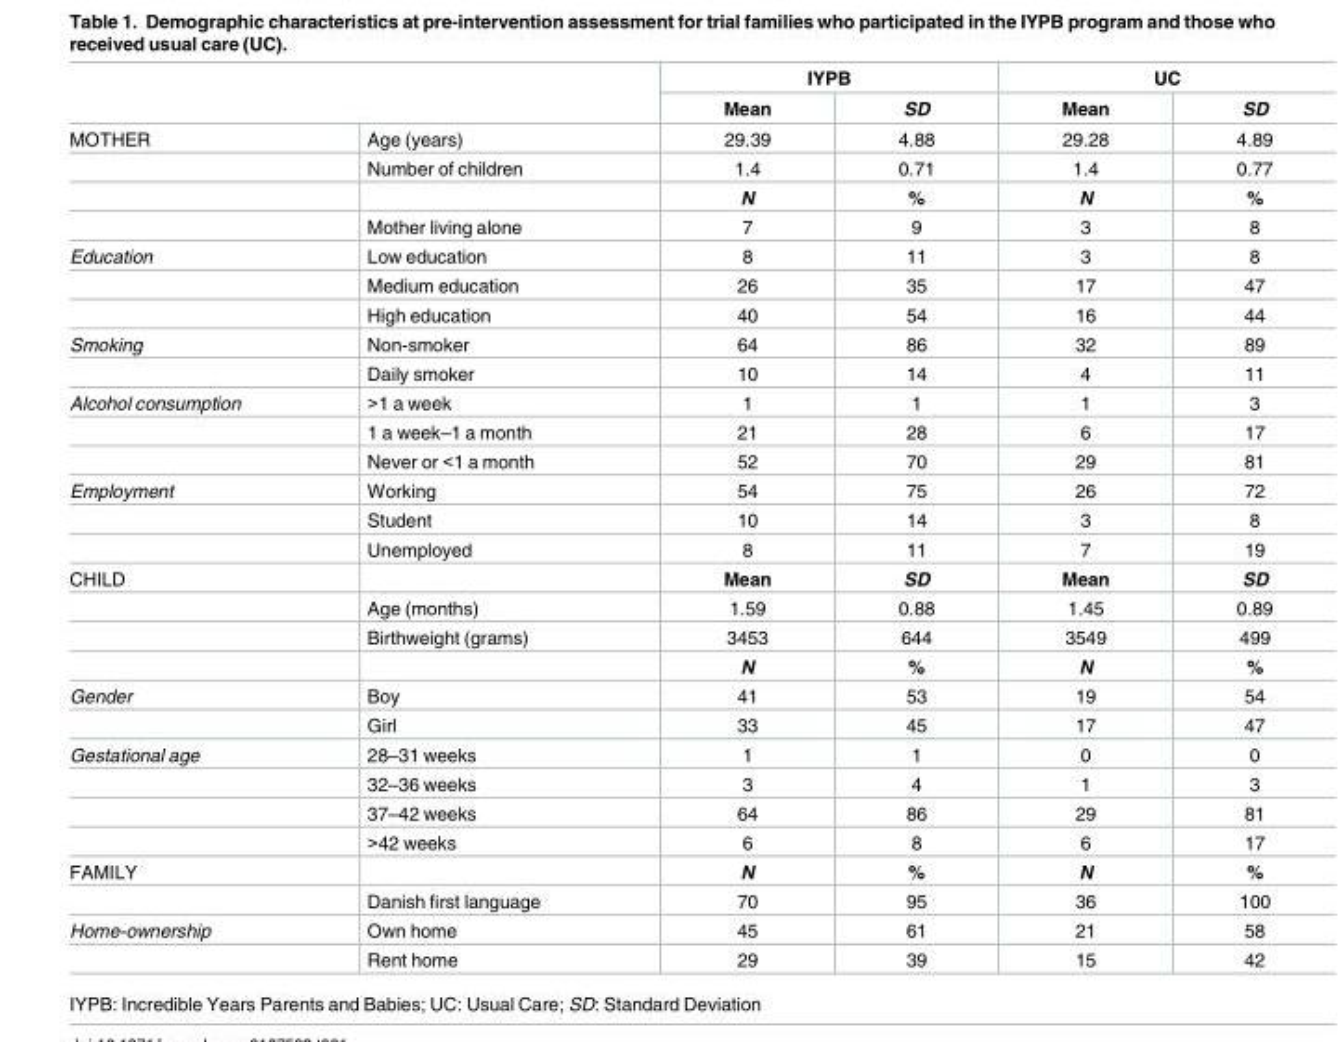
<table><thead><tr><td rowspan="2"></td><td rowspan="2"></td><td colspan="2">IYPB</td><td colspan="2">UC</td></tr><tr><td>Mean</td><td>SD</td><td>Mean</td><td>SD</td></tr></thead><tbody><tr><td rowspan="4">MOTHER</td><td>Age (years)</td><td>29.39</td><td>4.88</td><td>29.28</td><td>4.89</td></tr><tr><td>Number of children</td><td>1.4</td><td>0.71</td><td>1.4</td><td>0.77</td></tr><tr><td></td><td>N</td><td>%</td><td>N</td><td>%</td></tr><tr><td>Mother living alone</td><td>7</td><td>9</td><td>3</td><td>8</td></tr><tr><td rowspan="3">Education</td><td>Low education</td><td>8</td><td>11</td><td>3</td><td>8</td></tr><tr><td>Medium education</td><td>26</td><td>35</td><td>17</td><td>47</td></tr><tr><td>High education</td><td>40</td><td>54</td><td>16</td><td>44</td></tr><tr><td rowspan="2">Smoking</td><td>Non-smoker</td><td>64</td><td>86</td><td>32</td><td>89</td></tr><tr><td>Daily smoker</td><td>10</td><td>14</td><td>4</td><td>11</td></tr><tr><td rowspan="3">Alcohol consumption</td><td>&gt;1 a week</td><td>1</td><td>1</td><td>1</td><td>3</td></tr><tr><td>1 a week–1 a month</td><td>21</td><td>28</td><td>6</td><td>17</td></tr><tr><td>Never or &lt;1 a month</td><td>52</td><td>70</td><td>29</td><td>81</td></tr><tr><td rowspan="3">Employment</td><td>Working</td><td>54</td><td>75</td><td>26</td><td>72</td></tr><tr><td>Student</td><td>10</td><td>14</td><td>3</td><td>8</td></tr><tr><td>Unemployed</td><td>8</td><td>11</td><td>7</td><td>19</td></tr><tr><td rowspan="4">CHILD</td><td></td><td>Mean</td><td>SD</td><td>Mean</td><td>SD</td></tr><tr><td>Age (months)</td><td>1.59</td><td>0.88</td><td>1.45</td><td>0.89</td></tr><tr><td>Birthweight (grams)</td><td>3453</td><td>644</td><td>3549</td><td>499</td></tr><tr><td></td><td>N</td><td>%</td><td>N</td><td>%</td></tr><tr><td rowspan="2">Gender</td><td>Boy</td><td>41</td><td>53</td><td>19</td><td>54</td></tr><tr><td>Girl</td><td>33</td><td>45</td><td>17</td><td>47</td></tr><tr><td rowspan="4">Gestational age</td><td>28–31 weeks</td><td>1</td><td>1</td><td>0</td><td>0</td></tr><tr><td>32–36 weeks</td><td>3</td><td>4</td><td>1</td><td>3</td></tr><tr><td>37–42 weeks</td><td>64</td><td>86</td><td>29</td><td>81</td></tr><tr><td>&gt;42 weeks</td><td>6</td><td>8</td><td>6</td><td>17</td></tr><tr><td rowspan="2">FAMILY</td><td></td><td>N</td><td>%</td><td>N</td><td>%</td></tr><tr><td>Danish first language</td><td>70</td><td>95</td><td>36</td><td>100</td></tr><tr><td rowspan="2">Home-ownership</td><td>Own home</td><td>45</td><td>61</td><td>21</td><td>58</td></tr><tr><td>Rent home</td><td>29</td><td>39</td><td>15</td><td>42</td></tr></tbody></table>